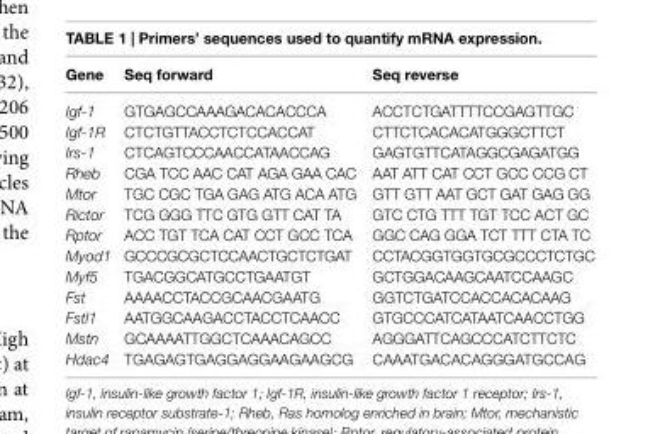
<table><thead><tr><td>gene</td><td>seq forward</td><td>seq reverse</td></tr></thead><tbody><tr><td>Igf-1</td><td>GTGAGCCAAAGACACACCCA</td><td>ACCTCTGATTTTCCGAGTTGC</td></tr><tr><td>Igf-1R</td><td>CTCTGTTACCTCTCCACCAT</td><td>CTTCTCACACATGGGCTTCT</td></tr><tr><td>Irs-1</td><td>CTCAGTCCCAACCATAACCAG</td><td>GAGTGTTCATAGGCGAGATGG</td></tr><tr><td>Rheb</td><td>CGA TCC AAC CAT AGA GAA CAC</td><td>AAT ATT CAT CCT GCC CCG CT</td></tr><tr><td>Mtor</td><td>TGC CGC TGA GAG ATG ACA ATG</td><td>GTT GTT AAT GCT GAT GAG GG</td></tr><tr><td>Rictor</td><td>TCG GGG TTC GTG GTT CAT TA</td><td>GTC CTG TTT TGT TCC ACT GC</td></tr><tr><td>Rptor</td><td>ACC TGT TCA CAT CCT GCC TCA</td><td>GGC CAG GGA TCT TTT CTA TC</td></tr><tr><td>Myod1</td><td>GCCCGCGCTCCAACTGCTCTGAT</td><td>CCTACGGTGGTGCGCCCTCTGC</td></tr><tr><td>Myf5</td><td>TGACGGCATGCCTGAATGT</td><td>GCTGGACAAGCAATCCAAGC</td></tr><tr><td>Fst</td><td>AAAACCTACCGCAACGAATG</td><td>GGTCTGATCCACCACACAAG</td></tr><tr><td>Fstl1</td><td>AATGGCAAGACCTACCTCAACC</td><td>GTGCCCATCATAATCAACCTGG</td></tr><tr><td>Mstn</td><td>GCAAAATTGGCTCAAACAGCC</td><td>AGGGATTCAGCCCATCTTCTC</td></tr><tr><td>Hdac4</td><td>TGAGAGTGAGGAGGAAGAAGCG</td><td>CAAATGACACAGGGATGCCAG</td></tr></tbody></table>